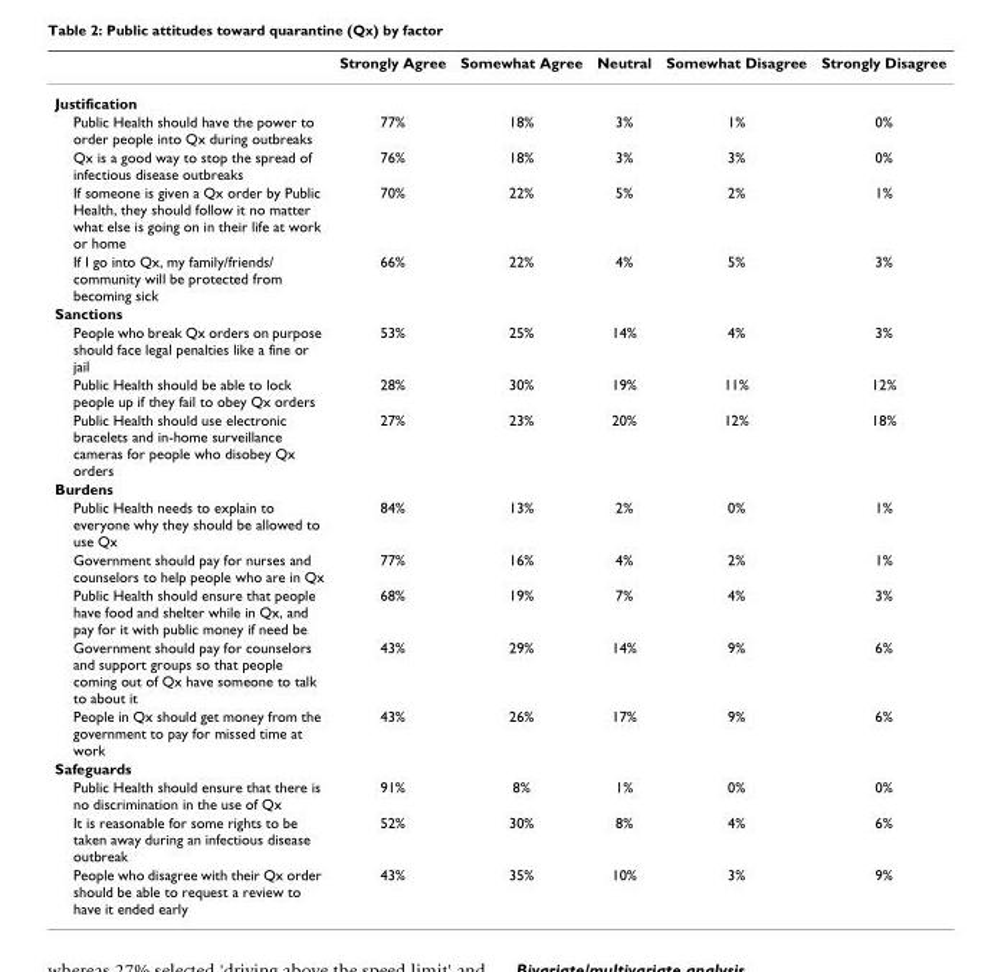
<table><thead><tr><td></td><td>Strongly Agree</td><td>Somewhat Agree</td><td>Neutral</td><td>Somewhat Disagree</td><td>Strongly Disagree</td></tr></thead><tbody><tr><td colspan="6">Justification</td></tr><tr><td>Public Health should have the power to order people into Qx during outbreaks</td><td>77%</td><td>18%</td><td>3%</td><td>1%</td><td>0%</td></tr><tr><td>Qx is a good way to stop the spread of infectious disease outbreaks</td><td>76%</td><td>18%</td><td>3%</td><td>3%</td><td>0%</td></tr><tr><td>If someone is given a Qx order by Public Health, they should follow it no matter what else is going on in their life at work or home</td><td>70%</td><td>22%</td><td>5%</td><td>2%</td><td>1%</td></tr><tr><td>If I go into Qx, my family/friends/ community will be protected from becoming sick</td><td>66%</td><td>22%</td><td>4%</td><td>5%</td><td>3%</td></tr><tr><td colspan="6">Sanctions</td></tr><tr><td>People who break Qx orders on purpose should face legal penalties like a fine or jail</td><td>53%</td><td>25%</td><td>14%</td><td>4%</td><td>3%</td></tr><tr><td>Public Health should be able to lock people up if they fail to obey Qx orders</td><td>28%</td><td>30%</td><td>19%</td><td>11%</td><td>12%</td></tr><tr><td>Public Health should use electronic bracelets and in-home surveillance cameras for people who disobey Qx orders</td><td>27%</td><td>23%</td><td>20%</td><td>12%</td><td>18%</td></tr><tr><td colspan="6">Burdens</td></tr><tr><td>Public Health needs to explain to everyone why they should be allowed to use Qx</td><td>84%</td><td>13%</td><td>2%</td><td>0%</td><td>1%</td></tr><tr><td>Government should pay for nurses and counselors to help people who are in Qx</td><td>77%</td><td>16%</td><td>4%</td><td>2%</td><td>1%</td></tr><tr><td>Public Health should ensure that people have food and shelter while in Qx, and pay for it with public money if need be</td><td>68%</td><td>19%</td><td>7%</td><td>4%</td><td>3%</td></tr><tr><td>Government should pay for counselors and support groups so that people coming out of Qx have someone to talk to about it</td><td>43%</td><td>29%</td><td>14%</td><td>9%</td><td>6%</td></tr><tr><td>People in Qx should get money from the government to pay for missed time at work</td><td>43%</td><td>26%</td><td>17%</td><td>9%</td><td>6%</td></tr><tr><td colspan="6">Safeguards</td></tr><tr><td>Public Health should ensure that there is no discrimination in the use of Qx</td><td>91%</td><td>8%</td><td>1%</td><td>0%</td><td>0%</td></tr><tr><td>It is reasonable for some rights to be taken away during an infectious disease outbreak</td><td>52%</td><td>30%</td><td>8%</td><td>4%</td><td>6%</td></tr><tr><td>People who disagree with their Qx order should be able to request a review to have it ended early</td><td>43%</td><td>35%</td><td>10%</td><td>3%</td><td>9%</td></tr></tbody></table>